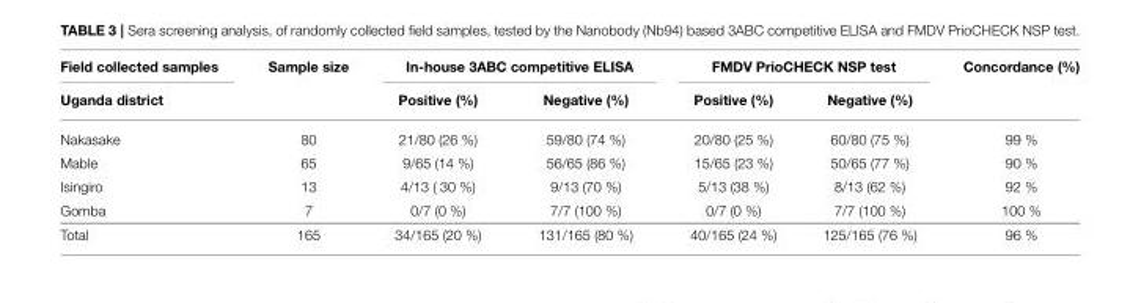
<table><thead><tr><td rowspan="2">Field collected samples Uganda district</td><td rowspan="2">Sample size</td><td colspan="2">In-house 3ABC competitive ELISA</td><td colspan="2">FMDV PrioCHECK NSP test</td><td rowspan="2">Concordance (%)</td></tr><tr><td>Positive (%)</td><td>Negative (%)</td><td>Positive (%)</td><td>Negative (%)</td></tr></thead><tbody><tr><td>Nakasake</td><td>80</td><td>21/80 (26 %)</td><td>59/80 (74 %)</td><td>20/80 (25 %)</td><td>60/80 (75 %)</td><td>99 %</td></tr><tr><td>Mable</td><td>65</td><td>9/65 (14 %)</td><td>56/65 (86 %)</td><td>15/65 (23 %)</td><td>50/65 (77 %)</td><td>90 %</td></tr><tr><td>Isingiro</td><td>13</td><td>4/13 ( 30 %)</td><td>9/13 (70 %)</td><td>5/13 (38 %)</td><td>8/13 (62 %)</td><td>92 %</td></tr><tr><td>Gomba</td><td>7</td><td>0/7 (0 %)</td><td>7/7 (100 %)</td><td>0/7 (0 %)</td><td>7/7 (100 %)</td><td>100 %</td></tr><tr><td>Total</td><td>165</td><td>34/165 (20 %)</td><td>131/165 (80 %)</td><td>40/165 (24 %)</td><td>125/165 (76 %)</td><td>96 %</td></tr></tbody></table>